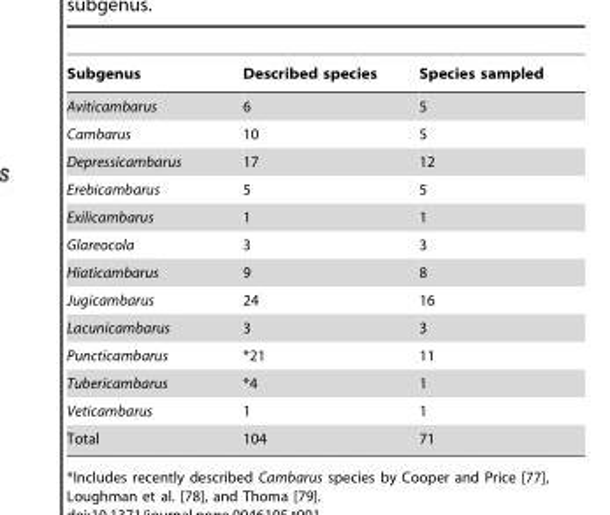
<table><thead><tr><td>Subgenus</td><td>Described species</td><td>Species sampled</td></tr></thead><tbody><tr><td>Aviticambarus</td><td>6</td><td>5</td></tr><tr><td>Cambarus</td><td>10</td><td>5</td></tr><tr><td>Depressicambarus</td><td>17</td><td>12</td></tr><tr><td>Erebicambarus</td><td>5</td><td>5</td></tr><tr><td>Exilicambarus</td><td>1</td><td>1</td></tr><tr><td>Glareocola</td><td>3</td><td>3</td></tr><tr><td>Hiaticambarus</td><td>9</td><td>8</td></tr><tr><td>Jugicambarus</td><td>24</td><td>16</td></tr><tr><td>Lacunicambarus</td><td>3</td><td>3</td></tr><tr><td>Puncticambarus</td><td>*21</td><td>11</td></tr><tr><td>Tubericambarus</td><td>*4</td><td>1</td></tr><tr><td>Veticambarus</td><td>1</td><td>1</td></tr><tr><td>Total</td><td>104</td><td>71</td></tr></tbody></table>